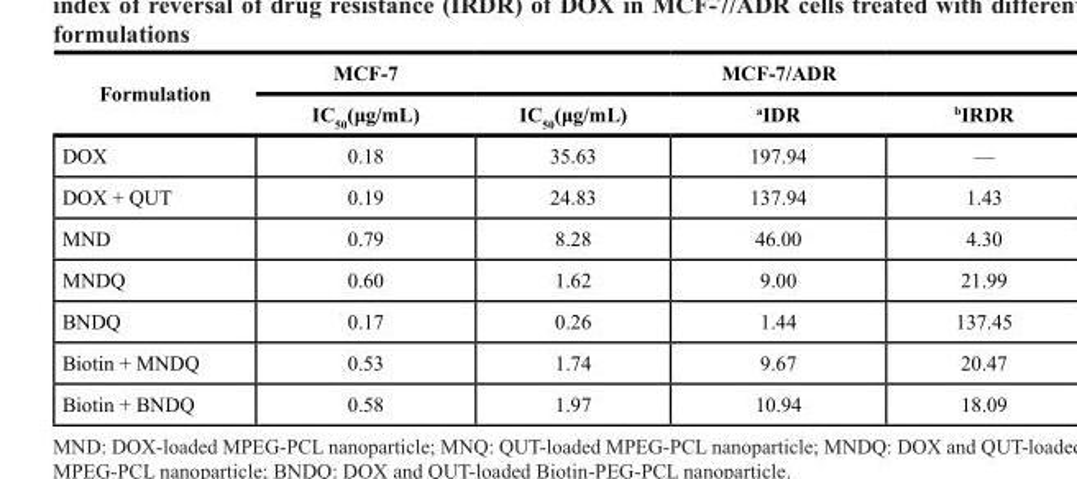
<table><thead><tr><td rowspan="2">Formulation</td><td rowspan="2">MCF-7 IC<sub>50</sub>(μg/mL)</td><td rowspan="2">IC<sub>50</sub>(μg/mL)</td><td rowspan="2">MCF-7/ADR <sup>a</sup>IDR</td><td rowspan="2"><sup>b</sup>IRDR</td></tr><tr></tr></thead><tbody><tr><td>DOX</td><td>0.18</td><td>35.63</td><td>197.94</td><td>—</td></tr><tr><td>DOX + QUT</td><td>0.19</td><td>24.83</td><td>137.94</td><td>1.43</td></tr><tr><td>MND</td><td>0.79</td><td>8.28</td><td>46.00</td><td>4.30</td></tr><tr><td>MNDQ</td><td>0.60</td><td>1.62</td><td>9.00</td><td>21.99</td></tr><tr><td>BNDQ</td><td>0.17</td><td>0.26</td><td>1.44</td><td>137.45</td></tr><tr><td>Biotin + MNDQ</td><td>0.53</td><td>1.74</td><td>9.67</td><td>20.47</td></tr><tr><td>Biotin + BNDQ</td><td>0.58</td><td>1.97</td><td>10.94</td><td>18.09</td></tr></tbody></table>